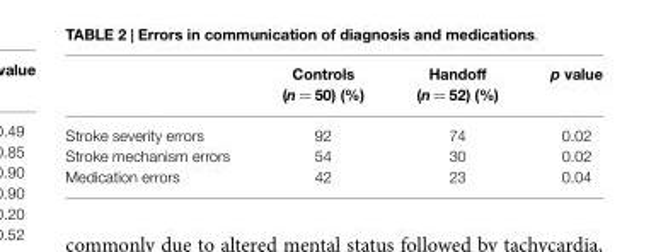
<table><thead><tr><td></td><td>Controls (n = 50) (%)</td><td>Handoff (n = 52) (%)</td><td>p value</td></tr></thead><tbody><tr><td>Stroke severity errors</td><td>92</td><td>74</td><td>0.02</td></tr><tr><td>Stroke mechanism errors</td><td>54</td><td>30</td><td>0.02</td></tr><tr><td>Medication errors</td><td>42</td><td>23</td><td>0.04</td></tr></tbody></table>